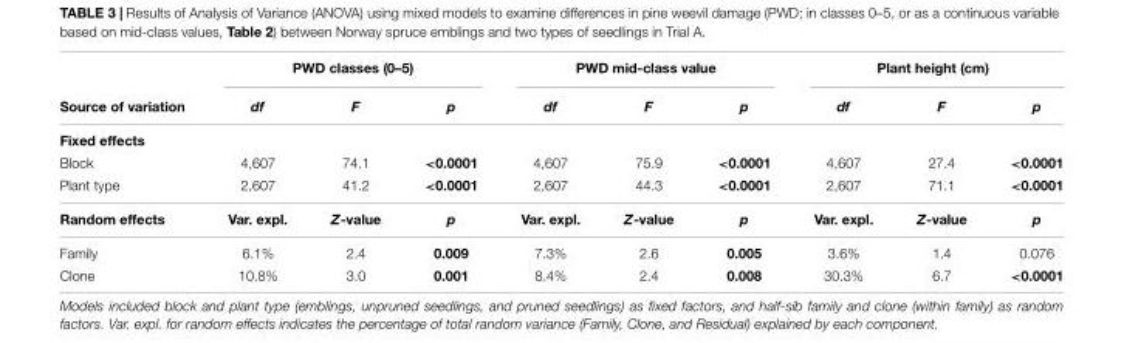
<table><thead><tr><td rowspan="2">Source of variation</td><td colspan="3">PWD classes (0–5)</td><td colspan="3">PWD mid-class value</td><td colspan="3">Plant height (cm)</td></tr><tr><td>df</td><td>F</td><td>p</td><td>df</td><td>F</td><td>p</td><td>df</td><td>F</td><td>p</td></tr></thead><tbody><tr><td colspan="10">Fixed effects</td></tr><tr><td>Block</td><td>4,607</td><td>74.1</td><td>&lt;0.0001</td><td>4,607</td><td>75.9</td><td>&lt;0.0001</td><td>4,607</td><td>27.4</td><td>&lt;0.0001</td></tr><tr><td>Plant type</td><td>2,607</td><td>41.2</td><td>&lt;0.0001</td><td>2,607</td><td>44.3</td><td>&lt;0.0001</td><td>2,607</td><td>71.1</td><td>&lt;0.0001</td></tr><tr><td>Random effects</td><td>Var. expl.</td><td>Z-value</td><td>p</td><td>Var. expl.</td><td>Z-value</td><td>p</td><td>Var. expl.</td><td>Z-value</td><td>p</td></tr><tr><td>Family</td><td>6.1%</td><td>2.4</td><td>0.009</td><td>7.3%</td><td>2.6</td><td>0.005</td><td>3.6%</td><td>1.4</td><td>0.076</td></tr><tr><td>Clone</td><td>10.8%</td><td>3.0</td><td>0.001</td><td>8.4%</td><td>2.4</td><td>0.008</td><td>30.3%</td><td>6.7</td><td>&lt;0.0001</td></tr></tbody></table>